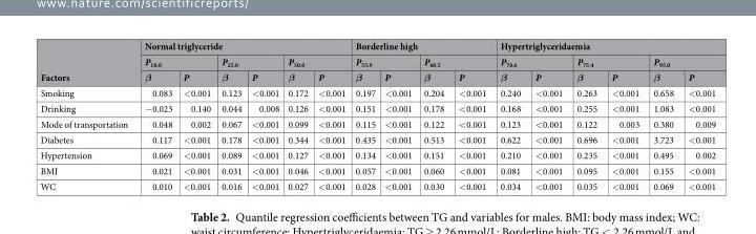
<table><thead><tr><td rowspan="3">Factors</td><td colspan="6">Normal triglyceride</td><td colspan="4">Borderline high</td><td colspan="6">Hypertriglyceridaemia</td></tr><tr><td colspan="2">P<sub>10.0</sub></td><td colspan="2">P<sub>25.0</sub></td><td colspan="2">P<sub>50.0</sub></td><td colspan="2">P<sub>55.9</sub></td><td colspan="2">P<sub>60.5</sub></td><td colspan="2">P<sub>70.6</sub></td><td colspan="2">P<sub>75.4</sub></td><td colspan="2">P<sub>95.0</sub></td></tr><tr><td>β</td><td>P</td><td>β</td><td>P</td><td>β</td><td>P</td><td>β</td><td>P</td><td>β</td><td>P</td><td>β</td><td>P</td><td>β</td><td>P</td><td>β</td><td>P</td></tr></thead><tbody><tr><td>Smoking</td><td>0.083</td><td>&lt;0.001</td><td>0.123</td><td>&lt;0.001</td><td>0.172</td><td>&lt;0.001</td><td>0.197</td><td>&lt;0.001</td><td>0.204</td><td>&lt;0.001</td><td>0.240</td><td>&lt;0.001</td><td>0.263</td><td>&lt;0.001</td><td>0.658</td><td>&lt;0.001</td></tr><tr><td>Drinking</td><td>−0.023</td><td>0.140</td><td>0.044</td><td>0.008</td><td>0.126</td><td>&lt;0.001</td><td>0.151</td><td>&lt;0.001</td><td>0.178</td><td>&lt;0.001</td><td>0.168</td><td>&lt;0.001</td><td>0.255</td><td>&lt;0.001</td><td>1.083</td><td>&lt;0.001</td></tr><tr><td>Mode of transportation</td><td>0.048</td><td>0.002</td><td>0.067</td><td>&lt;0.001</td><td>0.099</td><td>&lt;0.001</td><td>0.115</td><td>&lt;0.001</td><td>0.122</td><td>&lt;0.001</td><td>0.123</td><td>&lt;0.001</td><td>0.122</td><td>0.003</td><td>0.380</td><td>0.009</td></tr><tr><td>Diabetes</td><td>0.117</td><td>&lt;0.001</td><td>0.178</td><td>&lt;0.001</td><td>0.344</td><td>&lt;0.001</td><td>0.435</td><td>&lt;0.001</td><td>0.513</td><td>&lt;0.001</td><td>0.622</td><td>&lt;0.001</td><td>0.696</td><td>&lt;0.001</td><td>3.723</td><td>&lt;0.001</td></tr><tr><td>Hypertension</td><td>0.069</td><td>&lt;0.001</td><td>0.089</td><td>&lt;0.001</td><td>0.127</td><td>&lt;0.001</td><td>0.134</td><td>&lt;0.001</td><td>0.151</td><td>&lt;0.001</td><td>0.210</td><td>&lt;0.001</td><td>0.235</td><td>&lt;0.001</td><td>0.495</td><td>0.002</td></tr><tr><td>BMI</td><td>0.021</td><td>&lt;0.001</td><td>0.031</td><td>&lt;0.001</td><td>0.046</td><td>&lt;0.001</td><td>0.057</td><td>&lt;0.001</td><td>0.060</td><td>&lt;0.001</td><td>0.081</td><td>&lt;0.001</td><td>0.095</td><td>&lt;0.001</td><td>0.155</td><td>&lt;0.001</td></tr><tr><td>WC</td><td>0.010</td><td>&lt;0.001</td><td>0.016</td><td>&lt;0.001</td><td>0.027</td><td>&lt;0.001</td><td>0.028</td><td>&lt;0.001</td><td>0.030</td><td>&lt;0.001</td><td>0.034</td><td>&lt;0.001</td><td>0.035</td><td>&lt;0.001</td><td>0.069</td><td>&lt;0.001</td></tr></tbody></table>